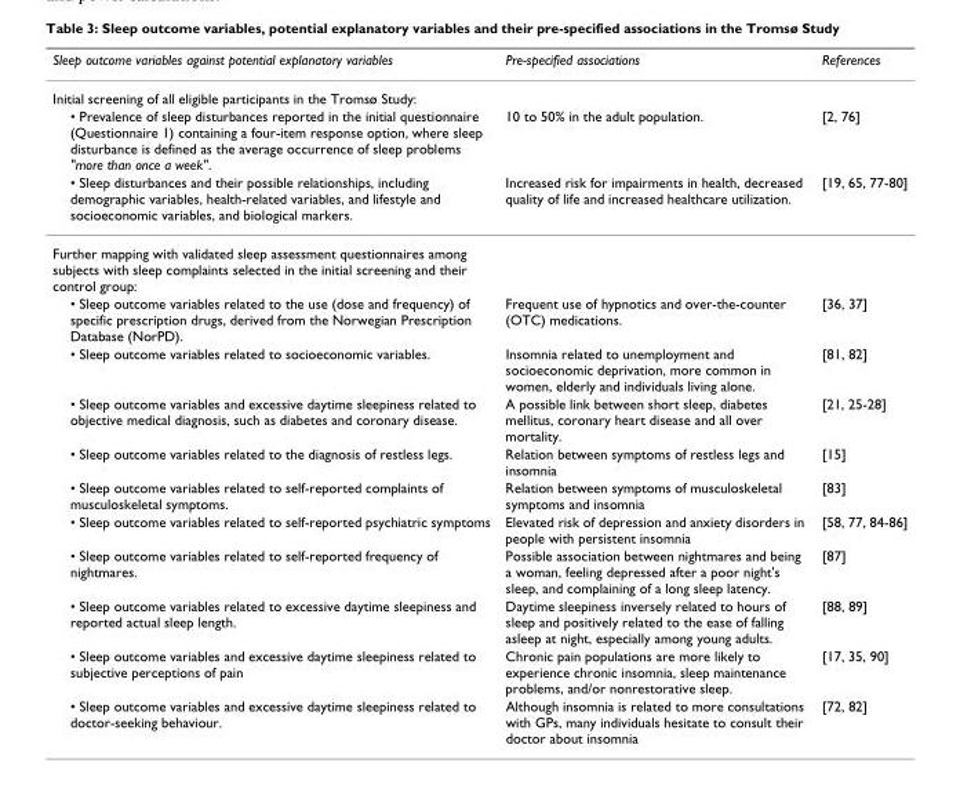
<table><thead><tr><td>Sleep outcome variables against potential explanatory variables</td><td>Pre-specified associations</td><td>References</td></tr></thead><tbody><tr><td colspan="3">Initial screening of all eligible participants in the Tromsø Study:</td></tr><tr><td>• Prevalence of sleep disturbances reported in the initial questionnaire (Questionnaire 1) containing a four-item response option, where sleep disturbance is defined as the average occurrence of sleep problems &quot;more than once a week&quot;.</td><td>10 to 50% in the adult population.</td><td>[2, 76]</td></tr><tr><td>• Sleep disturbances and their possible relationships, including demographic variables, health-related variables, and lifestyle and socioeconomic variables, and biological markers.</td><td>Increased risk for impairments in health, decreased quality of life and increased healthcare utilization.</td><td>[19, 65, 77-80]</td></tr><tr><td colspan="3">Further mapping with validated sleep assessment questionnaires among subjects with sleep complaints selected in the initial screening and their control group:</td></tr><tr><td>• Sleep outcome variables related to the use (dose and frequency) of specific prescription drugs, derived from the Norwegian Prescription Database (NorPD).</td><td>Frequent use of hypnotics and over-the-counter (OTC) medications.</td><td>[36, 37]</td></tr><tr><td>• Sleep outcome variables related to socioeconomic variables.</td><td>Insomnia related to unemployment and socioeconomic deprivation, more common in women, elderly and individuals living alone.</td><td>[81, 82]</td></tr><tr><td>• Sleep outcome variables and excessive daytime sleepiness related to objective medical diagnosis, such as diabetes and coronary disease.</td><td>A possible link between short sleep, diabetes mellitus, coronary heart disease and all over mortality.</td><td>[21, 25-28]</td></tr><tr><td>• Sleep outcome variables related to the diagnosis of restless legs.</td><td>Relation between symptoms of restless legs and insomnia</td><td>[15]</td></tr><tr><td>• Sleep outcome variables related to self-reported complaints of musculoskeletal symptoms.</td><td>Relation between symptoms of musculoskeletal symptoms and insomnia</td><td>[83]</td></tr><tr><td>• Sleep outcome variables related to self-reported psychiatric symptoms</td><td>Elevated risk of depression and anxiety disorders in people with persistent insomnia</td><td>[58, 77, 84-86]</td></tr><tr><td>• Sleep outcome variables related to self-reported frequency of nightmares.</td><td>Possible association between nightmares and being a woman, feeling depressed after a poor night&#x27;s sleep, and complaining of a long sleep latency.</td><td>[87]</td></tr><tr><td>• Sleep outcome variables related to excessive daytime sleepiness and reported actual sleep length.</td><td>Daytime sleepiness inversely related to hours of sleep and positively related to the ease of falling asleep at night, especially among young adults.</td><td>[88, 89]</td></tr><tr><td>• Sleep outcome variables and excessive daytime sleepiness related to subjective perceptions of pain</td><td>Chronic pain populations are more likely to experience chronic insomnia, sleep maintenance problems, and/or nonrestorative sleep.</td><td>[17, 35, 90]</td></tr><tr><td>• Sleep outcome variables and excessive daytime sleepiness related to doctor-seeking behaviour.</td><td>Although insomnia is related to more consultations with GPs, many individuals hesitate to consult their doctor about insomnia</td><td>[72, 82]</td></tr></tbody></table>